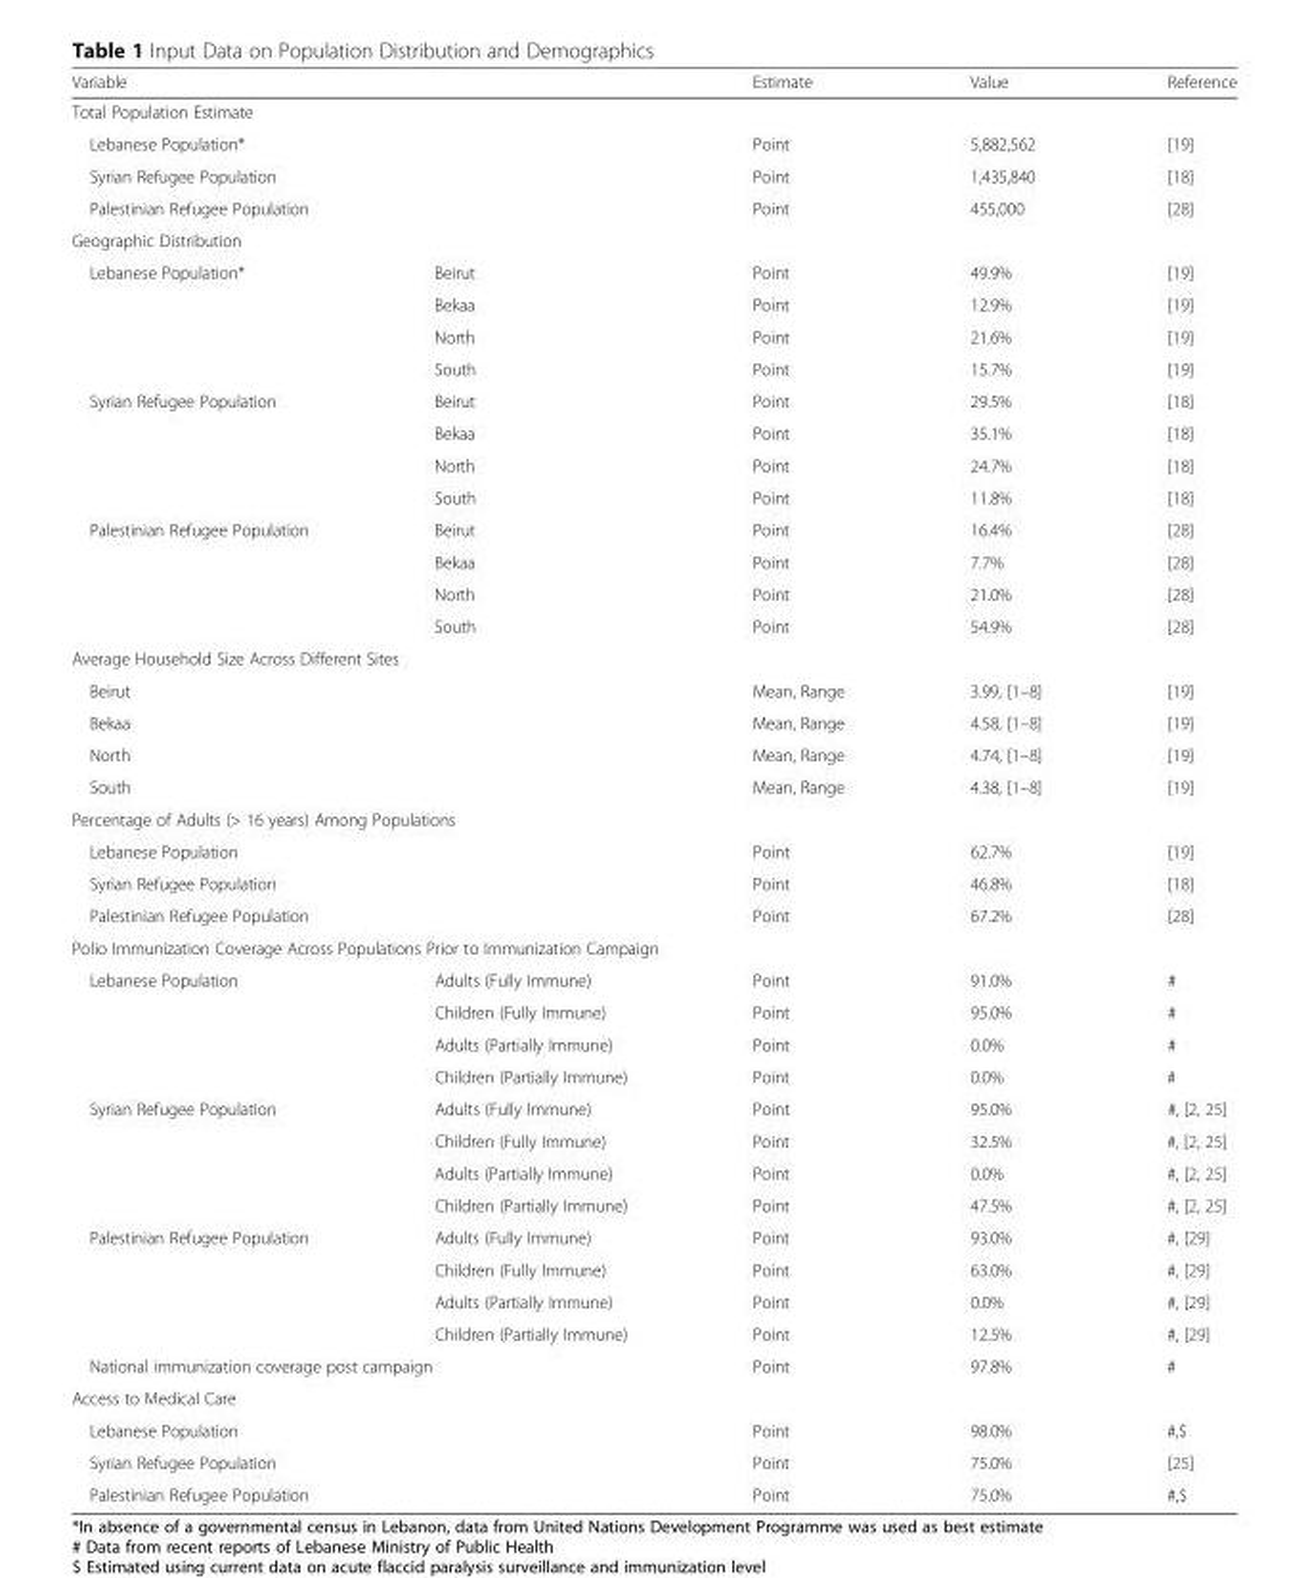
<table><thead><tr><td colspan="2">Variable</td><td>Estimate</td><td>Value</td><td>Reference</td></tr></thead><tbody><tr><td colspan="5">Total Population Estimate</td></tr><tr><td colspan="2">Lebanese Population*</td><td>Point</td><td>5,882,562</td><td>[19]</td></tr><tr><td colspan="2">Syrian Refugee Population</td><td>Point</td><td>1,435,840</td><td>[18]</td></tr><tr><td colspan="2">Palestinian Refugee Population</td><td>Point</td><td>455,000</td><td>[28]</td></tr><tr><td colspan="5">Geographic Distribution</td></tr><tr><td rowspan="4">Lebanese Population*</td><td>Beirut</td><td>Point</td><td>49.9%</td><td>[19]</td></tr><tr><td>Bekaa</td><td>Point</td><td>12.9%</td><td>[19]</td></tr><tr><td>North</td><td>Point</td><td>21.6%</td><td>[19]</td></tr><tr><td>South</td><td>Point</td><td>15.7%</td><td>[19]</td></tr><tr><td rowspan="4">Syrian Refugee Population</td><td>Beirut</td><td>Point</td><td>29.5%</td><td>[18]</td></tr><tr><td>Bekaa</td><td>Point</td><td>35.1%</td><td>[18]</td></tr><tr><td>North</td><td>Point</td><td>24.7%</td><td>[18]</td></tr><tr><td>South</td><td>Point</td><td>11.8%</td><td>[18]</td></tr><tr><td rowspan="4">Palestinian Refugee Population</td><td>Beirut</td><td>Point</td><td>16.4%</td><td>[28]</td></tr><tr><td>Bekaa</td><td>Point</td><td>7.7%</td><td>[28]</td></tr><tr><td>North</td><td>Point</td><td>21.0%</td><td>[28]</td></tr><tr><td>South</td><td>Point</td><td>54.9%</td><td>[28]</td></tr><tr><td colspan="5">Average Household Size Across Different Sites</td></tr><tr><td colspan="2">Beirut</td><td>Mean, Range</td><td>3.99, [1–8]</td><td>[19]</td></tr><tr><td colspan="2">Bekaa</td><td>Mean, Range</td><td>4.58, [1–8]</td><td>[19]</td></tr><tr><td colspan="2">North</td><td>Mean, Range</td><td>4.74, [1–8]</td><td>[19]</td></tr><tr><td colspan="2">South</td><td>Mean, Range</td><td>4.38, [1–8]</td><td>[19]</td></tr><tr><td colspan="5">Percentage of Adults (&gt; 16 years) Among Populations</td></tr><tr><td colspan="2">Lebanese Population</td><td>Point</td><td>62.7%</td><td>[19]</td></tr><tr><td colspan="2">Syrian Refugee Population</td><td>Point</td><td>46.8%</td><td>[18]</td></tr><tr><td colspan="2">Palestinian Refugee Population</td><td>Point</td><td>67.2%</td><td>[28]</td></tr><tr><td colspan="5">Polio Immunization Coverage Across Populations Prior to Immunization Campaign</td></tr><tr><td rowspan="4">Lebanese Population</td><td>Adults (Fully Immune)</td><td>Point</td><td>91.0%</td><td>#</td></tr><tr><td>Children (Fully Immune)</td><td>Point</td><td>95.0%</td><td>#</td></tr><tr><td>Adults (Partially Immune)</td><td>Point</td><td>0.0%</td><td>#</td></tr><tr><td>Children (Partially Immune)</td><td>Point</td><td>0.0%</td><td>#</td></tr><tr><td rowspan="4">Syrian Refugee Population</td><td>Adults (Fully Immune)</td><td>Point</td><td>95.0%</td><td>#, [2, 25]</td></tr><tr><td>Children (Fully Immune)</td><td>Point</td><td>32.5%</td><td>#, [2, 25]</td></tr><tr><td>Adults (Partially Immune)</td><td>Point</td><td>0.0%</td><td>#, [2, 25]</td></tr><tr><td>Children (Partially Immune)</td><td>Point</td><td>47.5%</td><td>#, [2, 25]</td></tr><tr><td rowspan="4">Palestinian Refugee Population</td><td>Adults (Fully Immune)</td><td>Point</td><td>93.0%</td><td>#, [29]</td></tr><tr><td>Children (Fully Immune)</td><td>Point</td><td>63.0%</td><td>#, [29]</td></tr><tr><td>Adults (Partially Immune)</td><td>Point</td><td>0.0%</td><td>#, [29]</td></tr><tr><td>Children (Partially Immune)</td><td>Point</td><td>12.5%</td><td>#, [29]</td></tr><tr><td colspan="2">National immunization coverage post campaign</td><td>Point</td><td>97.8%</td><td>#</td></tr><tr><td colspan="5">Access to Medical Care</td></tr><tr><td colspan="2">Lebanese Population</td><td>Point</td><td>98.0%</td><td>#,$</td></tr><tr><td colspan="2">Syrian Refugee Population</td><td>Point</td><td>75.0%</td><td>[25]</td></tr><tr><td colspan="2">Palestinian Refugee Population</td><td>Point</td><td>75.0%</td><td>#,$</td></tr></tbody></table>